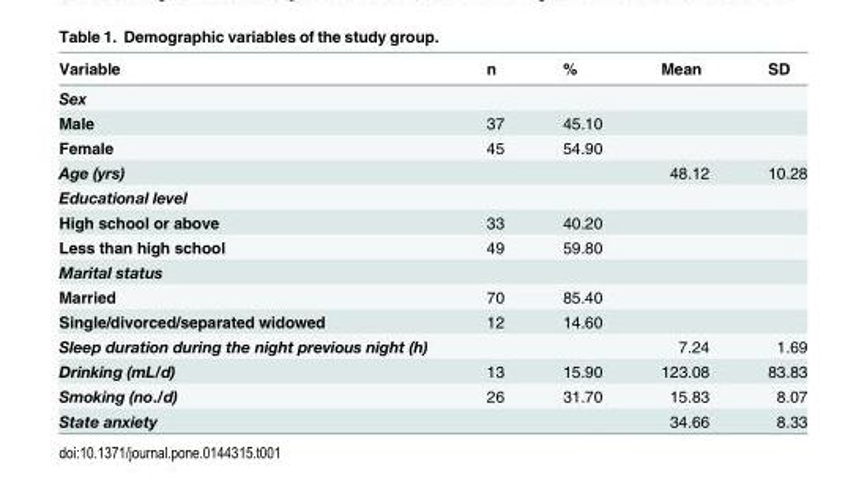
<table><thead><tr><td>Variable</td><td>n</td><td>%</td><td>Mean</td><td>SD</td></tr></thead><tbody><tr><td colspan="5">Sex</td></tr><tr><td>Male</td><td>37</td><td>45.10</td><td></td><td></td></tr><tr><td>Female</td><td>45</td><td>54.90</td><td></td><td></td></tr><tr><td>Age (yrs)</td><td></td><td></td><td>48.12</td><td>10.28</td></tr><tr><td colspan="5">Educational level</td></tr><tr><td>High school or above</td><td>33</td><td>40.20</td><td></td><td></td></tr><tr><td>Less than high school</td><td>49</td><td>59.80</td><td></td><td></td></tr><tr><td colspan="5">Marital status</td></tr><tr><td>Married</td><td>70</td><td>85.40</td><td></td><td></td></tr><tr><td>Single/divorced/separated widowed</td><td>12</td><td>14.60</td><td></td><td></td></tr><tr><td>Sleep duration during the night previous night (h)</td><td></td><td></td><td>7.24</td><td>1.69</td></tr><tr><td>Drinking (mL/d)</td><td>13</td><td>15.90</td><td>123.08</td><td>83.83</td></tr><tr><td>Smoking (no./d)</td><td>26</td><td>31.70</td><td>15.83</td><td>8.07</td></tr><tr><td>State anxiety</td><td></td><td></td><td>34.66</td><td>8.33</td></tr></tbody></table>